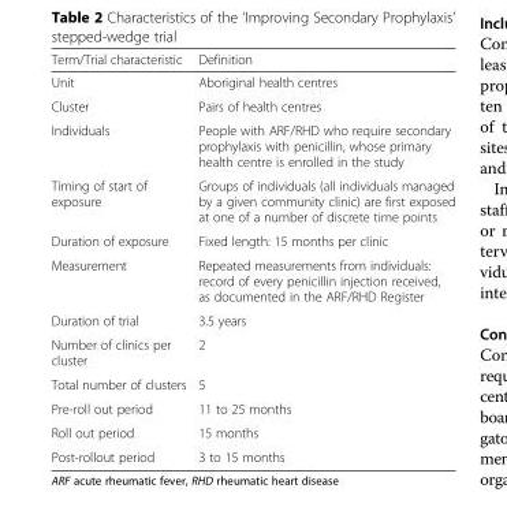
<table><thead><tr><td>Term/Trial characteristic</td><td>Definition</td></tr></thead><tbody><tr><td>Unit</td><td>Aboriginal health centres</td></tr><tr><td>Cluster</td><td>Pairs of health centres</td></tr><tr><td>Individuals</td><td>People with ARF/RHD who require secondary prophylaxis with penicillin, whose primary health centre is enrolled in the study</td></tr><tr><td>Timing of start of exposure</td><td>Groups of individuals (all individuals managed by a given community clinic) are first exposed at one of a number of discrete time points</td></tr><tr><td>Duration of exposure</td><td>Fixed length: 15 months per clinic</td></tr><tr><td>Measurement</td><td>Repeated measurements from individuals: record of every penicillin injection received, as documented in the ARF/RHD Register</td></tr><tr><td>Duration of trial</td><td>3.5 years</td></tr><tr><td>Number of clinics per cluster</td><td>2</td></tr><tr><td>Total number of clusters</td><td>5</td></tr><tr><td>Pre-roll out period</td><td>11 to 25 months</td></tr><tr><td>Roll out period</td><td>15 months</td></tr><tr><td>Post-rollout period</td><td>3 to 15 months</td></tr></tbody></table>